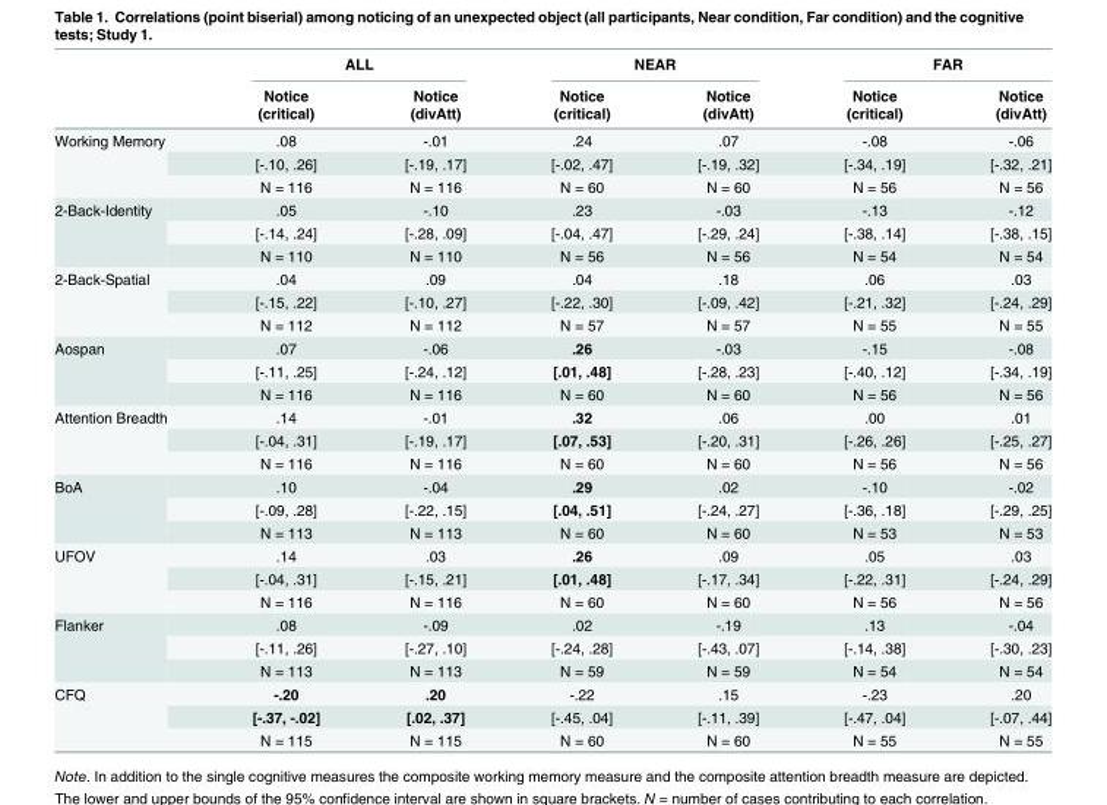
<table><thead><tr><td rowspan="3"></td><td colspan="2">ALL</td><td colspan="2">NEAR</td><td colspan="2">FAR</td></tr><tr><td rowspan="2">Notice (critical)</td><td rowspan="2">Notice (divAtt)</td><td rowspan="2">Notice (critical)</td><td rowspan="2">Notice (divAtt)</td><td rowspan="2">Notice (critical)</td><td rowspan="2">Notice (divAtt)</td></tr><tr></tr></thead><tbody><tr><td rowspan="3">Working Memory</td><td>.08</td><td>-.01</td><td>.24</td><td>.07</td><td>-.08</td><td>-.06</td></tr><tr><td>[-.10, .26]</td><td>[-.19, .17]</td><td>[-.02, .47]</td><td>[-.19, .32]</td><td>[-.34, .19]</td><td>[-.32, .21]</td></tr><tr><td>N = 116</td><td>N = 116</td><td>N = 60</td><td>N = 60</td><td>N = 56</td><td>N = 56</td></tr><tr><td rowspan="3">2-Back-Identity</td><td>.05</td><td>-.10</td><td>.23</td><td>-.03</td><td>-.13</td><td>-.12</td></tr><tr><td>[-.14, .24]</td><td>[-.28, .09]</td><td>[-.04, .47]</td><td>[-.29, .24]</td><td>[-.38, .14]</td><td>[-.38, .15]</td></tr><tr><td>N = 110</td><td>N = 110</td><td>N = 56</td><td>N = 56</td><td>N = 54</td><td>N = 54</td></tr><tr><td rowspan="3">2-Back-Spatial</td><td>.04</td><td>.09</td><td>.04</td><td>.18</td><td>.06</td><td>.03</td></tr><tr><td>[-.15, .22]</td><td>[-.10, .27]</td><td>[-.22, .30]</td><td>[-.09, .42]</td><td>[-.21, .32]</td><td>[-.24, .29]</td></tr><tr><td>N = 112</td><td>N = 112</td><td>N = 57</td><td>N = 57</td><td>N = 55</td><td>N = 55</td></tr><tr><td rowspan="3">Aospan</td><td>.07</td><td>-.06</td><td>.26</td><td>-.03</td><td>-.15</td><td>-.08</td></tr><tr><td>[-.11, .25]</td><td>[-.24, .12]</td><td>[.01, .48]</td><td>[-.28, .23]</td><td>[-.40, .12]</td><td>[-.34, .19]</td></tr><tr><td>N = 116</td><td>N = 116</td><td>N = 60</td><td>N = 60</td><td>N = 56</td><td>N = 56</td></tr><tr><td rowspan="3">Attention Breadth</td><td>.14</td><td>-.01</td><td>.32</td><td>.06</td><td>.00</td><td>.01</td></tr><tr><td>[-.04, .31]</td><td>[-.19, .17]</td><td>[.07, .53]</td><td>[-.20, .31]</td><td>[-.26, .26]</td><td>[-.25, .27]</td></tr><tr><td>N = 116</td><td>N = 116</td><td>N = 60</td><td>N = 60</td><td>N = 56</td><td>N = 56</td></tr><tr><td rowspan="3">BoA</td><td>.10</td><td>-.04</td><td>.29</td><td>.02</td><td>-.10</td><td>-.02</td></tr><tr><td>[-.09, .28]</td><td>[-.22, .15]</td><td>[.04, .51]</td><td>[-.24, .27]</td><td>[-.36, .18]</td><td>[-.29, .25]</td></tr><tr><td>N = 113</td><td>N = 113</td><td>N = 60</td><td>N = 60</td><td>N = 53</td><td>N = 53</td></tr><tr><td rowspan="3">UFOV</td><td>.14</td><td>.03</td><td>.26</td><td>.09</td><td>.05</td><td>.03</td></tr><tr><td>[-.04, .31]</td><td>[-.15, .21]</td><td>[.01, .48]</td><td>[-.17, .34]</td><td>[-.22, .31]</td><td>[-.24, .29]</td></tr><tr><td>N = 116</td><td>N = 116</td><td>N = 60</td><td>N = 60</td><td>N = 56</td><td>N = 56</td></tr><tr><td rowspan="3">Flanker</td><td>.08</td><td>-.09</td><td>.02</td><td>-.19</td><td>.13</td><td>-.04</td></tr><tr><td>[-.11, .26]</td><td>[-.27, .10]</td><td>[-.24, .28]</td><td>[-.43, .07]</td><td>[-.14, .38]</td><td>[-.30, .23]</td></tr><tr><td>N = 113</td><td>N = 113</td><td>N = 59</td><td>N = 59</td><td>N = 54</td><td>N = 54</td></tr><tr><td rowspan="3">CFQ</td><td>-.20</td><td>.20</td><td>-.22</td><td>.15</td><td>-.23</td><td>.20</td></tr><tr><td>[-.37, -.02]</td><td>[.02, .37]</td><td>[-.45, .04]</td><td>[-.11, .39]</td><td>[-.47, .04]</td><td>[-.07, .44]</td></tr><tr><td>N = 115</td><td>N = 115</td><td>N = 60</td><td>N = 60</td><td>N = 55</td><td>N = 55</td></tr></tbody></table>